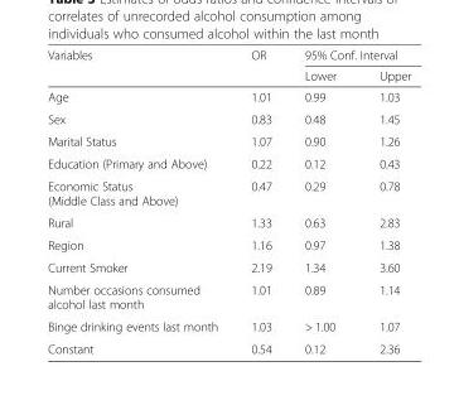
<table><thead><tr><td rowspan="2">Variables</td><td rowspan="2">OR</td><td colspan="2">95% Conf. Interval</td></tr><tr><td>Lower</td><td>Upper</td></tr></thead><tbody><tr><td>Age</td><td>1.01</td><td>0.99</td><td>1.03</td></tr><tr><td>Sex</td><td>0.83</td><td>0.48</td><td>1.45</td></tr><tr><td>Marital Status</td><td>1.07</td><td>0.90</td><td>1.26</td></tr><tr><td>Education (Primary and Above)</td><td>0.22</td><td>0.12</td><td>0.43</td></tr><tr><td>Economic Status (Middle Class and Above)</td><td>0.47</td><td>0.29</td><td>0.78</td></tr><tr><td>Rural</td><td>1.33</td><td>0.63</td><td>2.83</td></tr><tr><td>Region</td><td>1.16</td><td>0.97</td><td>1.38</td></tr><tr><td>Current Smoker</td><td>2.19</td><td>1.34</td><td>3.60</td></tr><tr><td>Number occasions consumed alcohol last month</td><td>1.01</td><td>0.89</td><td>1.14</td></tr><tr><td>Binge drinking events last month</td><td>1.03</td><td>&gt; 1.00</td><td>1.07</td></tr><tr><td>Constant</td><td>0.54</td><td>0.12</td><td>2.36</td></tr></tbody></table>